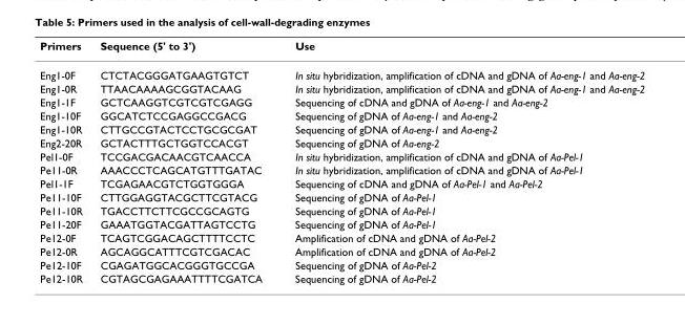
<table><thead><tr><td>Primers</td><td>Sequence (5&#x27; to 3&#x27;)</td><td>Use</td></tr></thead><tbody><tr><td>Eng1-0F</td><td>CTCTACGGGATGAAGTGTCT</td><td>In situ hybridization, amplification of cDNA and gDNA of Aa-eng-1 and Aa-eng-2</td></tr><tr><td>Eng1-0R</td><td>TTAACAAAAGCGGTACAAG</td><td>In situ hybridization, amplification of cDNA and gDNA of Aa-eng-1 and Aa-eng-2</td></tr><tr><td>Eng1-1F</td><td>GCTCAAGGTCGTCGTCGAGG</td><td>Sequencing of cDNA and gDNA of Aa-eng-1 and Aa-eng-2</td></tr><tr><td>Eng1-10F</td><td>GGCATCTCCGAGGCCGACG</td><td>Sequencing of gDNA of Aa-eng-1 and Aa-eng-2</td></tr><tr><td>Eng1-10R</td><td>CTTGCCGTACTCCTGCGCGAT</td><td>Sequencing of gDNA of Aa-eng-1 and Aa-eng-2</td></tr><tr><td>Eng2-20R</td><td>GCTACTTTGCTGGTCCACGT</td><td>Sequencing of gDNA of Aa-eng-2</td></tr><tr><td>Pel1-0F</td><td>TCCGACGACAACGTCAACCA</td><td>In situ hybridization, amplification of cDNA and gDNA of Aa-Pel-1</td></tr><tr><td>Pe11-0R</td><td>AAACCCTCAGCATGTTTGATAC</td><td>In situ hybridization, amplification of cDNA and gDNA of Aa-Pel-1</td></tr><tr><td>Pel1-1F</td><td>TCGAGAACGTCTGGTGGGA</td><td>Sequencing of cDNA and gDNA of Aa-Pel-1 and Aa-Pel-2</td></tr><tr><td>Pe11-10F</td><td>CTTGGAGGTACGCTTCGTACG</td><td>Sequencing of gDNA of Aa-Pel-1</td></tr><tr><td>Pe11-10R</td><td>TGACCTTCTTCGCCGCAGTG</td><td>Sequencing of gDNA of Aa-Pel-1</td></tr><tr><td>Pe11-20F</td><td>GAAATGGTACGATTAGTCCTG</td><td>Sequencing of gDNA of Aa-Pel-1</td></tr><tr><td>Pe12-0F</td><td>TCAGTCGGACAGCTTTTCCTC</td><td>Amplification of cDNA and gDNA of Aa-Pel-2</td></tr><tr><td>Pe12-0R</td><td>AGCAGGCATTTCGTCGACAC</td><td>Amplification of cDNA and gDNA of Aa-Pel-2</td></tr><tr><td>Pe12-10F</td><td>CGAGATGGCACGGGTGCCGA</td><td>Sequencing of gDNA of Aa-Pel-2</td></tr><tr><td>Pe12-10R</td><td>CGTAGCGAGAAATTTTCGATCA</td><td>Sequencing of gDNA of Aa-Pel-2</td></tr></tbody></table>